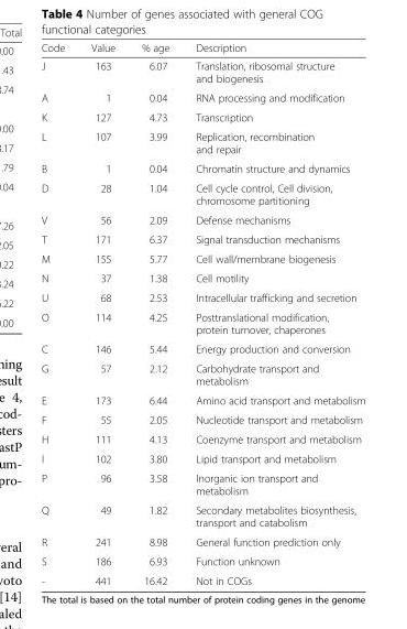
<table><thead><tr><td>Code</td><td>Value</td><td>% age</td><td>Description</td></tr></thead><tbody><tr><td>J</td><td>163</td><td>6.07</td><td>Translation, ribosomal structure and biogenesis</td></tr><tr><td>A</td><td>1</td><td>0.04</td><td>RNA processing and modification</td></tr><tr><td>K</td><td>127</td><td>4.73</td><td>Transcription</td></tr><tr><td>L</td><td>107</td><td>3.99</td><td>Replication, recombination and repair</td></tr><tr><td>B</td><td>1</td><td>0.04</td><td>Chromatin structure and dynamics</td></tr><tr><td>D</td><td>28</td><td>1.04</td><td>Cell cycle control, Cell division, chromosome partitioning</td></tr><tr><td>V</td><td>56</td><td>2.09</td><td>Defense mechanisms</td></tr><tr><td>T</td><td>171</td><td>6.37</td><td>Signal transduction mechanisms</td></tr><tr><td>M</td><td>155</td><td>5.77</td><td>Cell wall/membrane biogenesis</td></tr><tr><td>N</td><td>37</td><td>1.38</td><td>Cell motility</td></tr><tr><td>U</td><td>68</td><td>2.53</td><td>Intracellular trafficking and secretion</td></tr><tr><td>O</td><td>114</td><td>4.25</td><td>Posttranslational modification, protein turnover, chaperones</td></tr><tr><td>C</td><td>146</td><td>5.44</td><td>Energy production and conversion</td></tr><tr><td>G</td><td>57</td><td>2.12</td><td>Carbohydrate transport and metabolism</td></tr><tr><td>E</td><td>173</td><td>6.44</td><td>Amino acid transport and metabolism</td></tr><tr><td>F</td><td>55</td><td>2.05</td><td>Nucleotide transport and metabolism</td></tr><tr><td>H</td><td>111</td><td>4.13</td><td>Coenzyme transport and metabolism</td></tr><tr><td>I</td><td>102</td><td>3.80</td><td>Lipid transport and metabolism</td></tr><tr><td>P</td><td>96</td><td>3.58</td><td>Inorganic ion transport and metabolism</td></tr><tr><td>Q</td><td>49</td><td>1.82</td><td>Secondary metabolites biosynthesis, transport and catabolism</td></tr><tr><td>R</td><td>241</td><td>8.98</td><td>General function prediction only</td></tr><tr><td>S</td><td>186</td><td>6.93</td><td>Function unknown</td></tr><tr><td>-</td><td>441</td><td>16.42</td><td>Not in COGs</td></tr></tbody></table>